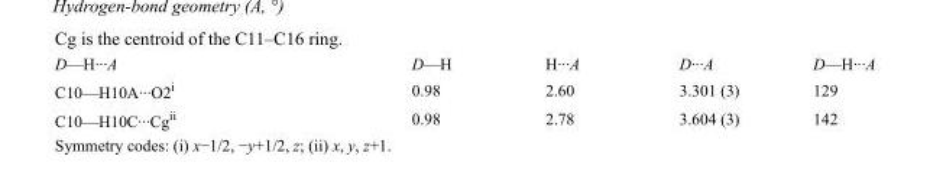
<table><tbody><tr><td>D—H···A</td><td>D—H</td><td>H···A</td><td>D···A</td><td>D—H···A</td></tr><tr><td>C10—H10A···O2<sup>i</sup></td><td>0.98</td><td>2.60</td><td>3.301 (3)</td><td>129</td></tr><tr><td>C10—H10C···Cg<sup>ii</sup></td><td>0.98</td><td>2.78</td><td>3.604 (3)</td><td>142</td></tr></tbody></table>